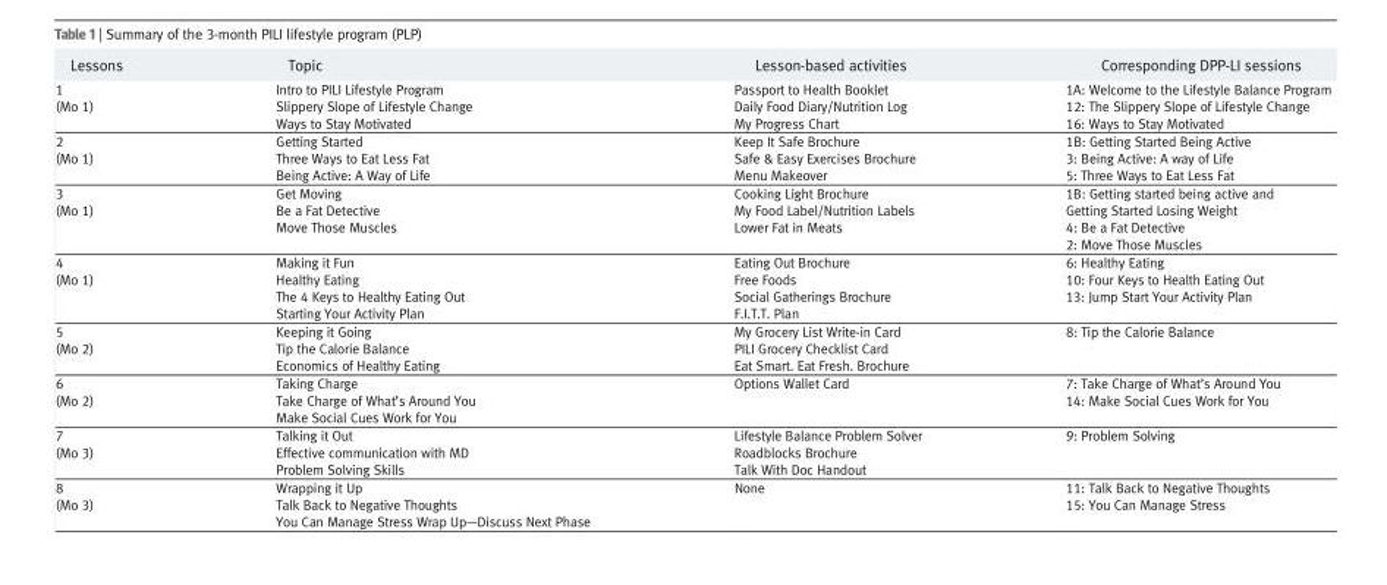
<table><thead><tr><td>Lessons</td><td>Topic</td><td>Lesson-based activities</td><td>Corresponding DPP-LI sessions</td></tr></thead><tbody><tr><td>1 (Mo 1)</td><td>Intro to PILI Lifestyle Program Slippery Slope of Lifestyle Change Ways to Stay Motivated</td><td>Passport to Health Booklet Daily Food Diary/Nutrition Log My Progress Chart</td><td>1A: Welcome to the Lifestyle Balance Program 12: The Slippery Slope of Lifestyle Change 16: Ways to Stay Motivated</td></tr><tr><td>2 (Mo 1)</td><td>Getting Started Three Ways to Eat Less Fat Being Active: A Way of Life</td><td>Keep It Safe Brochure Safe &amp; Easy Exercises Brochure Menu Makeover</td><td>1B: Getting Started Being Active 3: Being Active: A way of Life 5: Three Ways to Eat Less Fat</td></tr><tr><td>3 (Mo 1)</td><td>Get Moving Be a Fat Detective Move Those Muscles</td><td>Cooking Light Brochure My Food Label/Nutrition Labels Lower Fat in Meats</td><td>1B: Getting started being active and Getting Started Losing Weight 4: Be a Fat Detective 2: Move Those Muscles</td></tr><tr><td>4 (Mo 1)</td><td>Making it Fun Healthy Eating The 4 Keys to Healthy Eating Out Starting Your Activity Plan</td><td>Eating Out Brochure Free Foods Social Gatherings Brochure F.I.T.T. Plan</td><td>6: Healthy Eating 10: Four Keys to Health Eating Out 13: Jump Start Your Activity Plan</td></tr><tr><td>5 (Mo 2)</td><td>Keeping it Going Tip the Calorie Balance Economics of Healthy Eating</td><td>My Grocery List Write-in Card PILI Grocery Checklist Card Eat Smart. Eat Fresh. Brochure</td><td>8: Tip the Calorie Balance</td></tr><tr><td>6 (Mo 2)</td><td>Taking Charge Take Charge of What’s Around You Make Social Cues Work for You</td><td>Options Wallet Card</td><td>7: Take Charge of What’s Around You 14: Make Social Cues Work for You</td></tr><tr><td>7 (Mo 3)</td><td>Talking it Out Effective communication with MD Problem Solving Skills</td><td>Lifestyle Balance Problem Solver Roadblocks Brochure Talk With Doc Handout</td><td>9: Problem Solving</td></tr><tr><td>8 (Mo 3)</td><td>Wrapping it Up Talk Back to Negative Thoughts You Can Manage Stress Wrap Up—Discuss Next Phase</td><td>None</td><td>11: Talk Back to Negative Thoughts 15: You Can Manage Stress</td></tr></tbody></table>